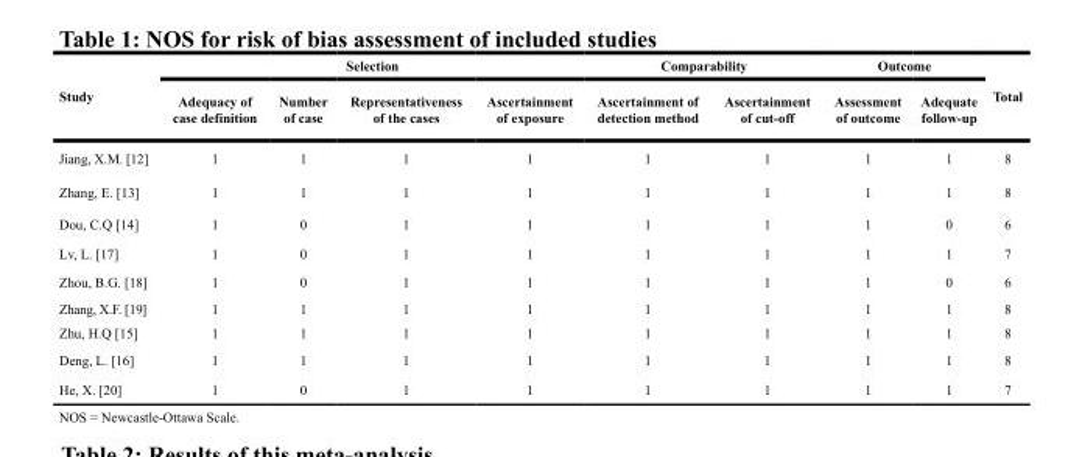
<table><thead><tr><td rowspan="2">Study</td><td colspan="4">Selection</td><td colspan="2">Comparability</td><td colspan="2">Outcome</td><td rowspan="2">Total</td></tr><tr><td>Adequacy of case definition</td><td>Number of case</td><td>Representativeness of the cases</td><td>Ascertainment of exposure</td><td>Ascertainment of detection method</td><td>Ascertainment of cut-off</td><td>Assessment of outcome</td><td>Adequate follow-up</td></tr></thead><tbody><tr><td>Jiang, X.M. [12]</td><td>1</td><td>1</td><td>1</td><td>1</td><td>1</td><td>1</td><td>1</td><td>1</td><td>8</td></tr><tr><td>Zhang, E. [13]</td><td>1</td><td>1</td><td>1</td><td>1</td><td>1</td><td>1</td><td>1</td><td>1</td><td>8</td></tr><tr><td>Dou, C.Q [14]</td><td>1</td><td>0</td><td>1</td><td>1</td><td>1</td><td>1</td><td>1</td><td>0</td><td>6</td></tr><tr><td>Lv, L. [17]</td><td>1</td><td>0</td><td>1</td><td>1</td><td>1</td><td>1</td><td>1</td><td>1</td><td>7</td></tr><tr><td>Zhou, B.G. [18]</td><td>1</td><td>0</td><td>1</td><td>1</td><td>1</td><td>1</td><td>1</td><td>0</td><td>6</td></tr><tr><td>Zhang, X.F. [19]</td><td>1</td><td>1</td><td>1</td><td>1</td><td>1</td><td>1</td><td>1</td><td>1</td><td>8</td></tr><tr><td>Zhu, H.Q [15]</td><td>1</td><td>1</td><td>1</td><td>1</td><td>1</td><td>1</td><td>1</td><td>1</td><td>8</td></tr><tr><td>Deng, L. [16]</td><td>1</td><td>1</td><td>1</td><td>1</td><td>1</td><td>1</td><td>1</td><td>1</td><td>8</td></tr><tr><td>He, X. [20]</td><td>1</td><td>0</td><td>1</td><td>1</td><td>1</td><td>1</td><td>1</td><td>1</td><td>7</td></tr></tbody></table>